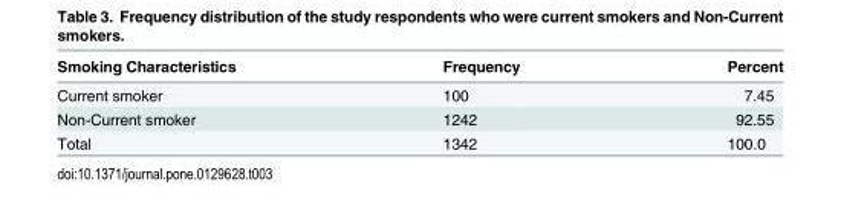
<table><thead><tr><td>Smoking Characteristics</td><td>Frequency</td><td>Percent</td></tr></thead><tbody><tr><td>Current smoker</td><td>100</td><td>7.45</td></tr><tr><td>Non-Current smoker</td><td>1242</td><td>92.55</td></tr><tr><td>Total</td><td>1342</td><td>100.0</td></tr></tbody></table>